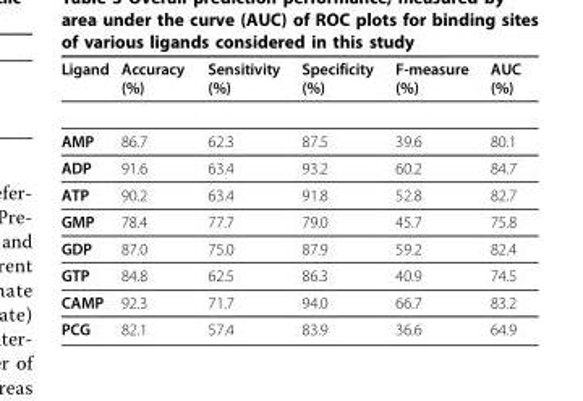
<table><thead><tr><td>Ligand</td><td>Accuracy (%)</td><td>Sensitivity (%)</td><td>Specificity (%)</td><td>F-measure (%)</td><td>AUC (%)</td></tr></thead><tbody><tr><td>AMP</td><td>86.7</td><td>62.3</td><td>87.5</td><td>39.6</td><td>80.1</td></tr><tr><td>ADP</td><td>91.6</td><td>63.4</td><td>93.2</td><td>60.2</td><td>84.7</td></tr><tr><td>ATP</td><td>90.2</td><td>63.4</td><td>91.8</td><td>52.8</td><td>82.7</td></tr><tr><td>GMP</td><td>78.4</td><td>77.7</td><td>79.0</td><td>45.7</td><td>75.8</td></tr><tr><td>GDP</td><td>87.0</td><td>75.0</td><td>87.9</td><td>59.2</td><td>82.4</td></tr><tr><td>GTP</td><td>84.8</td><td>62.5</td><td>86.3</td><td>40.9</td><td>74.5</td></tr><tr><td>CAMP</td><td>92.3</td><td>71.7</td><td>94.0</td><td>66.7</td><td>83.2</td></tr><tr><td>PCG</td><td>82.1</td><td>57.4</td><td>83.9</td><td>36.6</td><td>64.9</td></tr></tbody></table>